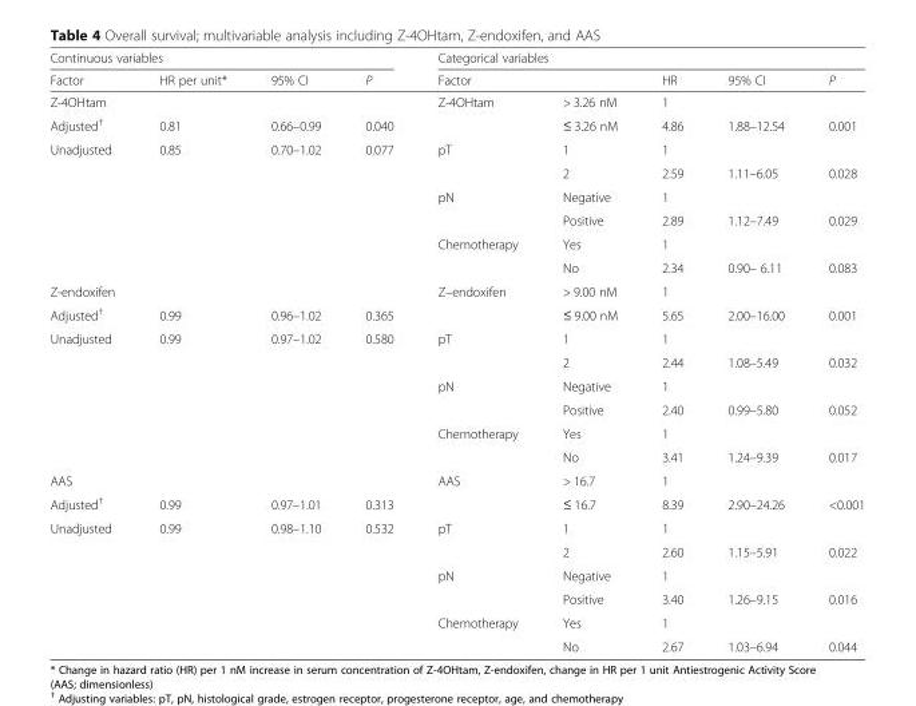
<table><thead><tr><td colspan="4">Continuous variables</td><td colspan="5">Categorical variables</td></tr><tr><td>Factor</td><td>HR per unit*</td><td>95% CI</td><td>P</td><td>Factor</td><td></td><td>HR</td><td>95% CI</td><td>P</td></tr></thead><tbody><tr><td>Z-4OHtam</td><td></td><td></td><td></td><td>Z-4OHtam</td><td>&gt; 3.26 nM</td><td>1</td><td></td><td></td></tr><tr><td>Adjusted<sup>†</sup></td><td>0.81</td><td>0.66–0.99</td><td>0.040</td><td></td><td>≤ 3.26 nM</td><td>4.86</td><td>1.88–12.54</td><td>0.001</td></tr><tr><td rowspan="6">Unadjusted</td><td>0.85</td><td>0.70–1.02</td><td>0.077</td><td>pT</td><td>1</td><td>1</td><td></td><td></td></tr><tr><td></td><td></td><td></td><td></td><td>2</td><td>2.59</td><td>1.11–6.05</td><td>0.028</td></tr><tr><td></td><td></td><td></td><td>pN</td><td>Negative</td><td>1</td><td></td><td></td></tr><tr><td></td><td></td><td></td><td></td><td>Positive</td><td>2.89</td><td>1.12–7.49</td><td>0.029</td></tr><tr><td></td><td></td><td></td><td>Chemotherapy</td><td>Yes</td><td>1</td><td></td><td></td></tr><tr><td></td><td></td><td></td><td></td><td>No</td><td>2.34</td><td>0.90– 6.11</td><td>0.083</td></tr><tr><td>Z-endoxifen</td><td></td><td></td><td></td><td>Z–endoxifen</td><td>&gt; 9.00 nM</td><td>1</td><td></td><td></td></tr><tr><td>Adjusted<sup>†</sup></td><td>0.99</td><td>0.96–1.02</td><td>0.365</td><td></td><td>≤ 9.00 nM</td><td>5.65</td><td>2.00–16.00</td><td>0.001</td></tr><tr><td rowspan="6">Unadjusted</td><td>0.99</td><td>0.97–1.02</td><td>0.580</td><td>pT</td><td>1</td><td>1</td><td></td><td></td></tr><tr><td></td><td></td><td></td><td></td><td>2</td><td>2.44</td><td>1.08–5.49</td><td>0.032</td></tr><tr><td></td><td></td><td></td><td>pN</td><td>Negative</td><td>1</td><td></td><td></td></tr><tr><td></td><td></td><td></td><td></td><td>Positive</td><td>2.40</td><td>0.99–5.80</td><td>0.052</td></tr><tr><td></td><td></td><td></td><td>Chemotherapy</td><td>Yes</td><td>1</td><td></td><td></td></tr><tr><td></td><td></td><td></td><td></td><td>No</td><td>3.41</td><td>1.24–9.39</td><td>0.017</td></tr><tr><td>AAS</td><td></td><td></td><td></td><td>AAS</td><td>&gt; 16.7</td><td>1</td><td></td><td></td></tr><tr><td>Adjusted<sup>†</sup></td><td>0.99</td><td>0.97–1.01</td><td>0.313</td><td></td><td>≤ 16.7</td><td>8.39</td><td>2.90–24.26</td><td>&lt;0.001</td></tr><tr><td rowspan="6">Unadjusted</td><td>0.99</td><td>0.98–1.10</td><td>0.532</td><td>pT</td><td>1</td><td>1</td><td></td><td></td></tr><tr><td></td><td></td><td></td><td></td><td>2</td><td>2.60</td><td>1.15–5.91</td><td>0.022</td></tr><tr><td></td><td></td><td></td><td>pN</td><td>Negative</td><td>1</td><td></td><td></td></tr><tr><td></td><td></td><td></td><td></td><td>Positive</td><td>3.40</td><td>1.26–9.15</td><td>0.016</td></tr><tr><td></td><td></td><td></td><td>Chemotherapy</td><td>Yes</td><td>1</td><td></td><td></td></tr><tr><td></td><td></td><td></td><td></td><td>No</td><td>2.67</td><td>1.03–6.94</td><td>0.044</td></tr></tbody></table>